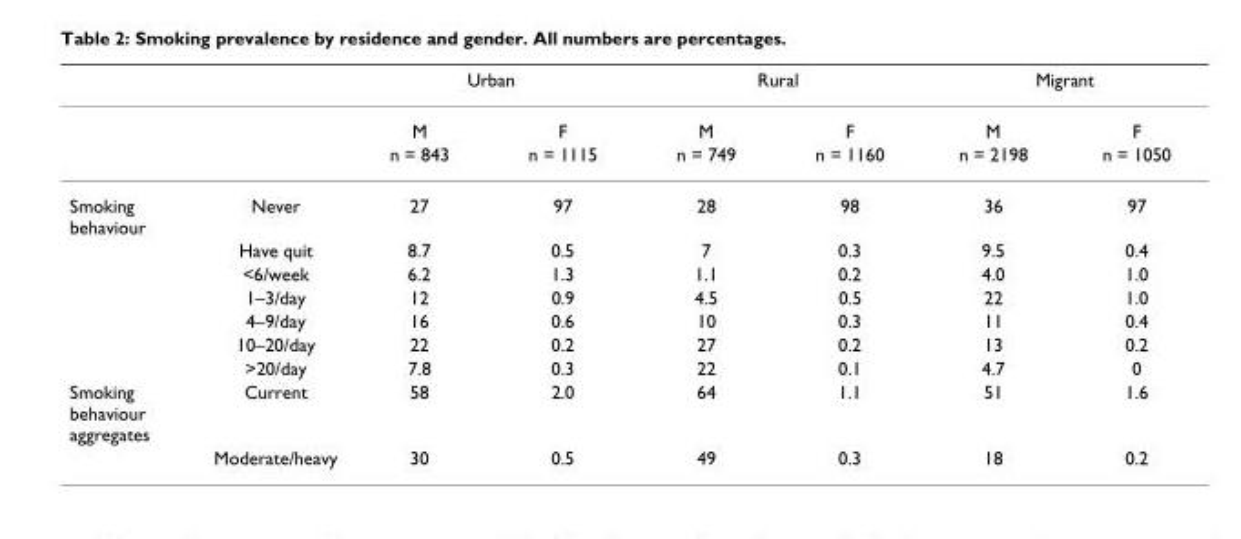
<table><thead><tr><td rowspan="2"></td><td rowspan="2"></td><td colspan="2">Urban</td><td colspan="2">Rural</td><td colspan="2">Migrant</td></tr><tr><td>M</td><td>F</td><td>M</td><td>F</td><td>M</td><td>F</td></tr></thead><tbody><tr><td></td><td></td><td>n = 843</td><td>n = 1115</td><td>n = 749</td><td>n = 1160</td><td>n = 2198</td><td>n = 1050</td></tr><tr><td rowspan="7">Smoking behaviour</td><td>Never</td><td>27</td><td>97</td><td>28</td><td>98</td><td>36</td><td>97</td></tr><tr><td>Have quit</td><td>8.7</td><td>0.5</td><td>7</td><td>0.3</td><td>9.5</td><td>0.4</td></tr><tr><td>&lt;6/week</td><td>6.2</td><td>1.3</td><td>1.1</td><td>0.2</td><td>4.0</td><td>1.0</td></tr><tr><td>1–3/day</td><td>12</td><td>0.9</td><td>4.5</td><td>0.5</td><td>22</td><td>1.0</td></tr><tr><td>4–9/day</td><td>16</td><td>0.6</td><td>10</td><td>0.3</td><td>11</td><td>0.4</td></tr><tr><td>10–20/day</td><td>22</td><td>0.2</td><td>27</td><td>0.2</td><td>13</td><td>0.2</td></tr><tr><td>&gt;20/day</td><td>7.8</td><td>0.3</td><td>22</td><td>0.1</td><td>4.7</td><td>0</td></tr><tr><td rowspan="2">Smoking behaviour aggregates</td><td>Current</td><td>58</td><td>2.0</td><td>64</td><td>1.1</td><td>51</td><td>1.6</td></tr><tr><td>Moderate/heavy</td><td>30</td><td>0.5</td><td>49</td><td>0.3</td><td>18</td><td>0.2</td></tr></tbody></table>